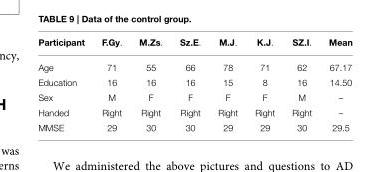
<table><thead><tr><td>Participant</td><td>F.Gy.</td><td>M.Zs.</td><td>Sz.E.</td><td>M.J.</td><td>K.J.</td><td>SZ.I.</td><td>Mean</td></tr></thead><tbody><tr><td>Age</td><td>71</td><td>55</td><td>66</td><td>78</td><td>71</td><td>62</td><td>67.17</td></tr><tr><td>Education</td><td>16</td><td>16</td><td>16</td><td>15</td><td>8</td><td>16</td><td>14.50</td></tr><tr><td>Sex</td><td>M</td><td>F</td><td>F</td><td>F</td><td>F</td><td>M</td><td>–</td></tr><tr><td>Handed</td><td>Right</td><td>Right</td><td>Right</td><td>Right</td><td>Right</td><td>Right</td><td>–</td></tr><tr><td>MMSE</td><td>29</td><td>30</td><td>30</td><td>29</td><td>29</td><td>30</td><td>29.5</td></tr></tbody></table>